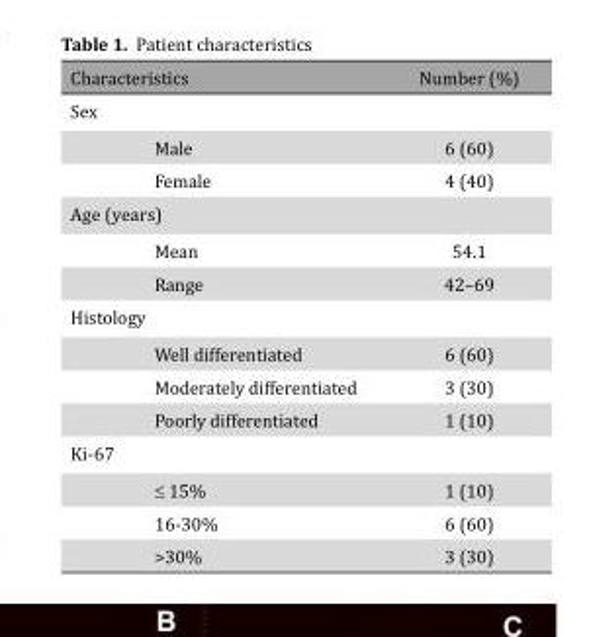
<table><thead><tr><td>Characteristics</td><td>Number (%)</td></tr></thead><tbody><tr><td colspan="2">Sex</td></tr><tr><td>Male</td><td>6 (60)</td></tr><tr><td>Female</td><td>4 (40)</td></tr><tr><td colspan="2">Age (years)</td></tr><tr><td>Mean</td><td>54.1</td></tr><tr><td>Range</td><td>42–69</td></tr><tr><td colspan="2">Histology</td></tr><tr><td>Well differentiated</td><td>6 (60)</td></tr><tr><td>Moderately differentiated</td><td>3 (30)</td></tr><tr><td>Poorly differentiated</td><td>1 (10)</td></tr><tr><td colspan="2">Ki-67</td></tr><tr><td>≤ 15%</td><td>1 (10)</td></tr><tr><td>16-30%</td><td>6 (60)</td></tr><tr><td>&gt;30%</td><td>3 (30)</td></tr></tbody></table>